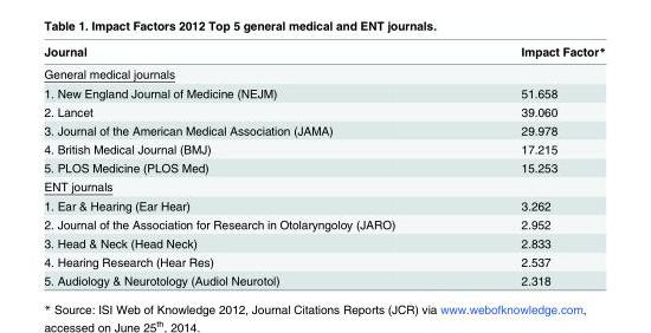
<table><thead><tr><td>Journal</td><td>Impact Factor*</td></tr></thead><tbody><tr><td colspan="2">General medical journals</td></tr><tr><td>1. New England Journal of Medicine (NEJM)</td><td>51.658</td></tr><tr><td>2. Lancet</td><td>39.060</td></tr><tr><td>3. Journal of the American Medical Association (JAMA)</td><td>29.978</td></tr><tr><td>4. British Medical Journal (BMJ)</td><td>17.215</td></tr><tr><td>5. PLOS Medicine (PLOS Med)</td><td>15.253</td></tr><tr><td colspan="2">ENT journals</td></tr><tr><td>1. Ear &amp; Hearing (Ear Hear)</td><td>3.262</td></tr><tr><td>2. Journal of the Association for Research in Otolaryngoloy (JARO)</td><td>2.952</td></tr><tr><td>3. Head &amp; Neck (Head Neck)</td><td>2.833</td></tr><tr><td>4. Hearing Research (Hear Res)</td><td>2.537</td></tr><tr><td>5. Audiology &amp; Neurotology (Audiol Neurotol)</td><td>2.318</td></tr></tbody></table>